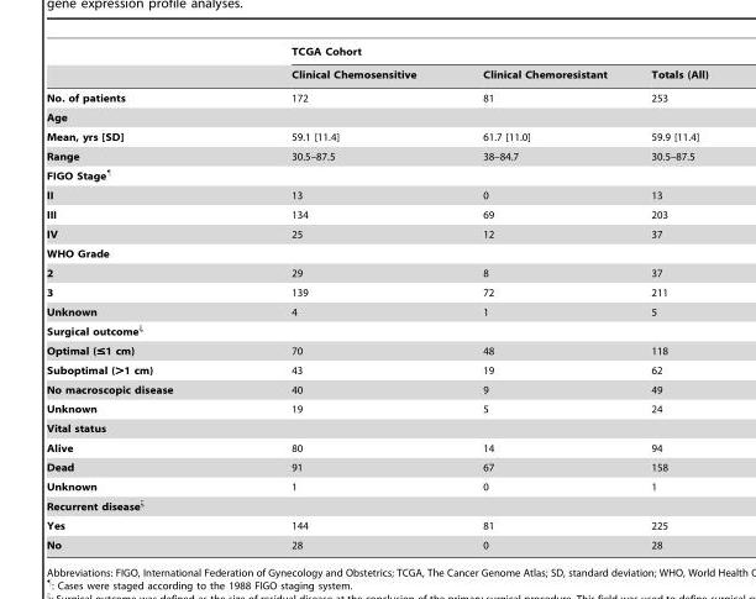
<table><thead><tr><td rowspan="2"></td><td colspan="3">TCGA Cohort</td></tr><tr><td>Clinical Chemosensitive</td><td>Clinical Chemoresistant</td><td>Totals (All)</td></tr></thead><tbody><tr><td>No. of patients</td><td>172</td><td>81</td><td>253</td></tr><tr><td colspan="4">Age</td></tr><tr><td>Mean, yrs [SD]</td><td>59.1 [11.4]</td><td>61.7 [11.0]</td><td>59.9 [11.4]</td></tr><tr><td>Range</td><td>30.5–87.5</td><td>38–84.7</td><td>30.5–87.5</td></tr><tr><td colspan="4">FIGO Stage¶</td></tr><tr><td>II</td><td>13</td><td>0</td><td>13</td></tr><tr><td>III</td><td>134</td><td>69</td><td>203</td></tr><tr><td>IV</td><td>25</td><td>12</td><td>37</td></tr><tr><td colspan="4">WHO Grade</td></tr><tr><td>2</td><td>29</td><td>8</td><td>37</td></tr><tr><td>3</td><td>139</td><td>72</td><td>211</td></tr><tr><td>Unknown</td><td>4</td><td>1</td><td>5</td></tr><tr><td colspan="4">Surgical outcomeξ</td></tr><tr><td>Optimal (≤1 cm)</td><td>70</td><td>48</td><td>118</td></tr><tr><td>Suboptimal (&gt;1 cm)</td><td>43</td><td>19</td><td>62</td></tr><tr><td>No macroscopic disease</td><td>40</td><td>9</td><td>49</td></tr><tr><td>Unknown</td><td>19</td><td>5</td><td>24</td></tr><tr><td colspan="4">Vital status</td></tr><tr><td>Alive</td><td>80</td><td>14</td><td>94</td></tr><tr><td>Dead</td><td>91</td><td>67</td><td>158</td></tr><tr><td>Unknown</td><td>1</td><td>0</td><td>1</td></tr><tr><td colspan="4">Recurrent diseaseζ</td></tr><tr><td>Yes</td><td>144</td><td>81</td><td>225</td></tr><tr><td>No</td><td>28</td><td>0</td><td>28</td></tr></tbody></table>